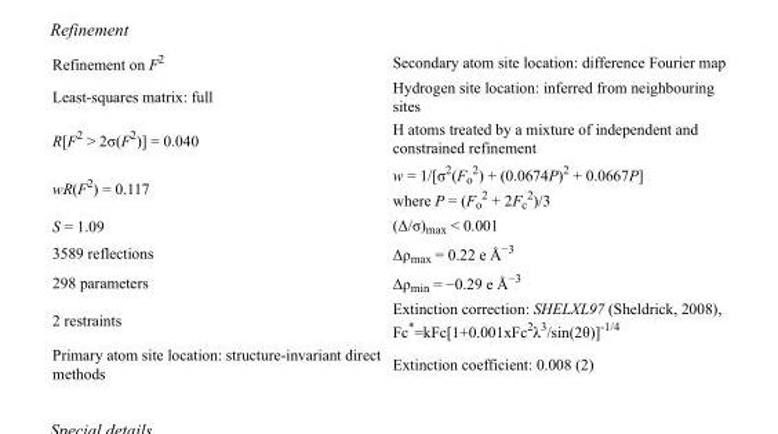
<table><tbody><tr><td>Refinement on F<sup>2</sup></td><td>Secondary atom site location: difference Fourier map</td></tr><tr><td>Least-squares matrix: full</td><td>Hydrogen site location: inferred from neighbouring sites</td></tr><tr><td>R[F<sup>2</sup> &gt; 2σ(F<sup>2</sup>)] = 0.040</td><td>H atoms treated by a mixture of independent and constrained refinement</td></tr><tr><td>wR(F<sup>2</sup>) = 0.117</td><td>w = 1/[σ<sup>2</sup>(F<sub>o</sub> <sup>2</sup>) + (0.0674P)<sup>2</sup> + 0.0667P] where P = (F<sub>o</sub> <sup>2</sup> + 2F<sub>c</sub> <sup>2</sup>)/3</td></tr><tr><td>S = 1.09</td><td>(Δ/σ)<sub>max</sub> &lt; 0.001</td></tr><tr><td>3589 reflections</td><td>Δρ<sub>max</sub> = 0.22 e Å<sup>−3</sup></td></tr><tr><td>298 parameters</td><td>Δρ<sub>min</sub> = −0.29 e Å<sup>−3</sup></td></tr><tr><td>2 restraints</td><td>Extinction correction: SHELXL97 (Sheldrick, 2008), Fc*=kFc[1+0.001xFc<sup>2</sup>λ<sup>3</sup>/sin(2θ)]<sup>-1/4</sup></td></tr><tr><td>Primary atom site location: structure-invariant direct methods</td><td>Extinction coefficient: 0.008 (2)</td></tr></tbody></table>